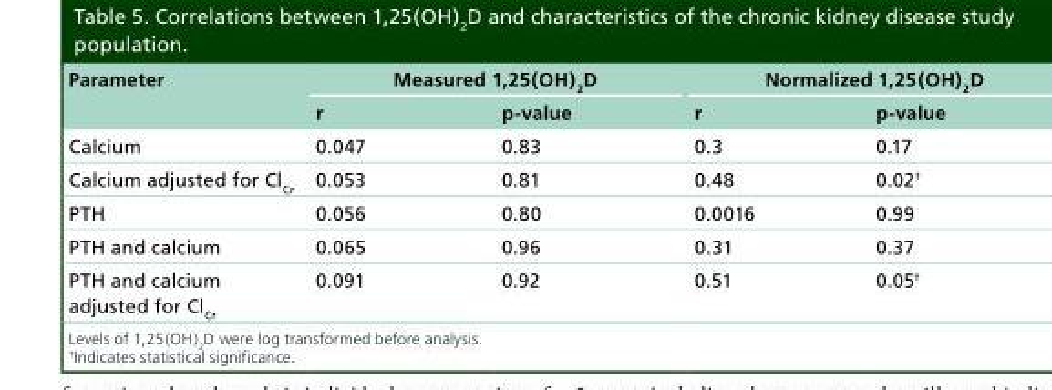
<table><thead><tr><td rowspan="2">Parameter</td><td colspan="2">Measured 1,25(OH)<sub>2</sub>D</td><td colspan="2">Normalized 1,25(OH)<sub>2</sub>D</td></tr><tr><td>r</td><td>p-value</td><td>r</td><td>p-value</td></tr></thead><tbody><tr><td>Calcium</td><td>0.047</td><td>0.83</td><td>0.3</td><td>0.17</td></tr><tr><td>Calcium adjusted for Cl<sub>Cr</sub></td><td>0.053</td><td>0.81</td><td>0.48</td><td>0.02<sup>†</sup></td></tr><tr><td>PTH</td><td>0.056</td><td>0.80</td><td>0.0016</td><td>0.99</td></tr><tr><td>PTH and calcium</td><td>0.065</td><td>0.96</td><td>0.31</td><td>0.37</td></tr><tr><td>PTH and calcium adjusted for Cl<sub>Cr</sub></td><td>0.091</td><td>0.92</td><td>0.51</td><td>0.05<sup>†</sup></td></tr></tbody></table>